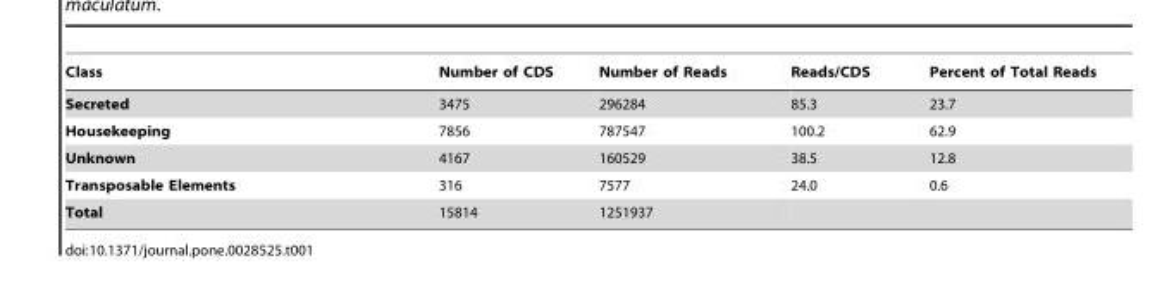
<table><thead><tr><td>Class</td><td>Number of CDS</td><td>Number of Reads</td><td>Reads/CDS</td><td>Percent of Total Reads</td></tr></thead><tbody><tr><td>Secreted</td><td>3475</td><td>296284</td><td>85.3</td><td>23.7</td></tr><tr><td>Housekeeping</td><td>7856</td><td>787547</td><td>100.2</td><td>62.9</td></tr><tr><td>Unknown</td><td>4167</td><td>160529</td><td>38.5</td><td>12.8</td></tr><tr><td>Transposable Elements</td><td>316</td><td>7577</td><td>24.0</td><td>0.6</td></tr><tr><td>Total</td><td>15814</td><td>1251937</td><td></td><td></td></tr></tbody></table>